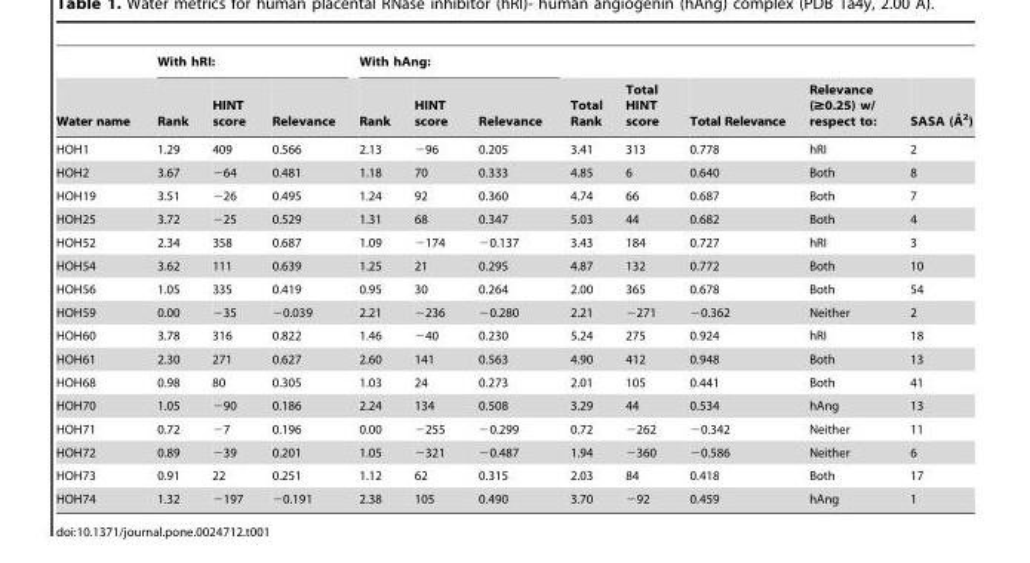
<table><thead><tr><td rowspan="2">Water name</td><td colspan="3">With hRI:</td><td colspan="3">With hAng:</td><td rowspan="2">Total Rank</td><td rowspan="2">Total HINT score</td><td rowspan="2">Total Relevance</td><td rowspan="2">Relevance (≥0.25) w/ respect to:</td><td rowspan="2">SASA (A˚ 2)</td></tr><tr><td>Rank</td><td>HINT score</td><td>Relevance</td><td>Rank</td><td>HINT score</td><td>Relevance</td></tr></thead><tbody><tr><td>HOH1</td><td>1.29</td><td>409</td><td>0.566</td><td>2.13</td><td>−96</td><td>0.205</td><td>3.41</td><td>313</td><td>0.778</td><td>hRI</td><td>2</td></tr><tr><td>HOH2</td><td>3.67</td><td>−64</td><td>0.481</td><td>1.18</td><td>70</td><td>0.333</td><td>4.85</td><td>6</td><td>0.640</td><td>Both</td><td>8</td></tr><tr><td>HOH19</td><td>3.51</td><td>−26</td><td>0.495</td><td>1.24</td><td>92</td><td>0.360</td><td>4.74</td><td>66</td><td>0.687</td><td>Both</td><td>7</td></tr><tr><td>HOH25</td><td>3.72</td><td>−25</td><td>0.529</td><td>1.31</td><td>68</td><td>0.347</td><td>5.03</td><td>44</td><td>0.682</td><td>Both</td><td>4</td></tr><tr><td>HOH52</td><td>2.34</td><td>358</td><td>0.687</td><td>1.09</td><td>−174</td><td>−0.137</td><td>3.43</td><td>184</td><td>0.727</td><td>hRI</td><td>3</td></tr><tr><td>HOH54</td><td>3.62</td><td>111</td><td>0.639</td><td>1.25</td><td>21</td><td>0.295</td><td>4.87</td><td>132</td><td>0.772</td><td>Both</td><td>10</td></tr><tr><td>HOH56</td><td>1.05</td><td>335</td><td>0.419</td><td>0.95</td><td>30</td><td>0.264</td><td>2.00</td><td>365</td><td>0.678</td><td>Both</td><td>54</td></tr><tr><td>HOH59</td><td>0.00</td><td>−35</td><td>−0.039</td><td>2.21</td><td>−236</td><td>−0.280</td><td>2.21</td><td>−271</td><td>−0.362</td><td>Neither</td><td>2</td></tr><tr><td>HOH60</td><td>3.78</td><td>316</td><td>0.822</td><td>1.46</td><td>−40</td><td>0.230</td><td>5.24</td><td>275</td><td>0.924</td><td>hRI</td><td>18</td></tr><tr><td>HOH61</td><td>2.30</td><td>271</td><td>0.627</td><td>2.60</td><td>141</td><td>0.563</td><td>4.90</td><td>412</td><td>0.948</td><td>Both</td><td>13</td></tr><tr><td>HOH68</td><td>0.98</td><td>80</td><td>0.305</td><td>1.03</td><td>24</td><td>0.273</td><td>2.01</td><td>105</td><td>0.441</td><td>Both</td><td>41</td></tr><tr><td>HOH70</td><td>1.05</td><td>−90</td><td>0.186</td><td>2.24</td><td>134</td><td>0.508</td><td>3.29</td><td>44</td><td>0.534</td><td>hAng</td><td>13</td></tr><tr><td>HOH71</td><td>0.72</td><td>−7</td><td>0.196</td><td>0.00</td><td>−255</td><td>−0.299</td><td>0.72</td><td>−262</td><td>−0.342</td><td>Neither</td><td>11</td></tr><tr><td>HOH72</td><td>0.89</td><td>−39</td><td>0.201</td><td>1.05</td><td>−321</td><td>−0.487</td><td>1.94</td><td>−360</td><td>−0.586</td><td>Neither</td><td>6</td></tr><tr><td>HOH73</td><td>0.91</td><td>22</td><td>0.251</td><td>1.12</td><td>62</td><td>0.315</td><td>2.03</td><td>84</td><td>0.418</td><td>Both</td><td>17</td></tr><tr><td>HOH74</td><td>1.32</td><td>−197</td><td>−0.191</td><td>2.38</td><td>105</td><td>0.490</td><td>3.70</td><td>−92</td><td>0.459</td><td>hAng</td><td>1</td></tr></tbody></table>